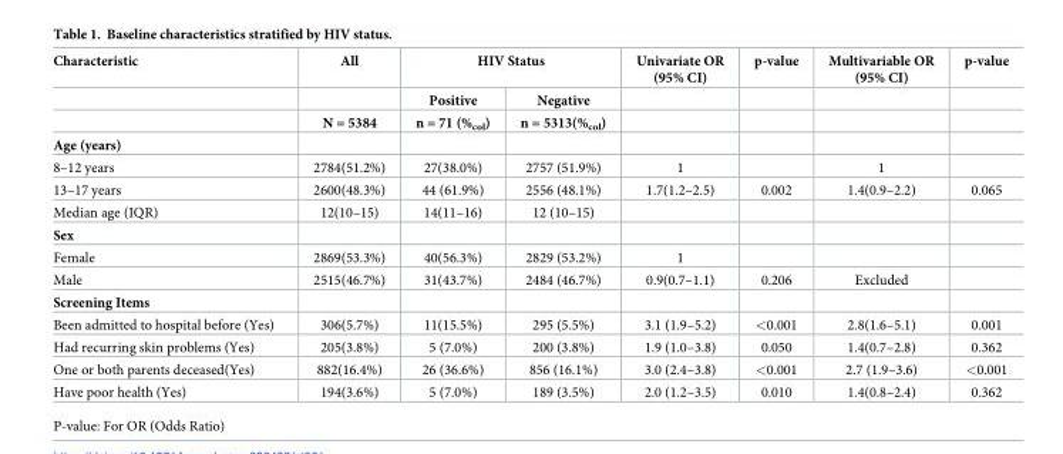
<table><thead><tr><td rowspan="2">Characteristic</td><td rowspan="2">All</td><td colspan="2">HIV Status</td><td rowspan="2">Univariate OR (95% CI)</td><td rowspan="2">p-value</td><td rowspan="2">Multivariable OR (95% CI)</td><td rowspan="2">p-value</td></tr><tr><td>Positive</td><td>Negative</td></tr></thead><tbody><tr><td></td><td>N = 5384</td><td>n = 71 (%<sub>col</sub>)</td><td>n = 5313(%<sub>col</sub>)</td><td></td><td></td><td></td><td></td></tr><tr><td colspan="8">Age (years)</td></tr><tr><td>8–12 years</td><td>2784(51.2%)</td><td>27(38.0%)</td><td>2757 (51.9%)</td><td>1</td><td></td><td>1</td><td></td></tr><tr><td>13–17 years</td><td>2600(48.3%)</td><td>44 (61.9%)</td><td>2556 (48.1%)</td><td>1.7(1.2–2.5)</td><td>0.002</td><td>1.4(0.9–2.2)</td><td>0.065</td></tr><tr><td>Median age (IQR)</td><td>12(10–15)</td><td>14(11–16)</td><td>12 (10–15)</td><td></td><td></td><td></td><td></td></tr><tr><td colspan="8">Sex</td></tr><tr><td>Female</td><td>2869(53.3%)</td><td>40(56.3%)</td><td>2829 (53.2%)</td><td>1</td><td></td><td></td><td></td></tr><tr><td>Male</td><td>2515(46.7%)</td><td>31(43.7%)</td><td>2484 (46.7%)</td><td>0.9(0.7–1.1)</td><td>0.206</td><td>Excluded</td><td></td></tr><tr><td colspan="8">Screening Items</td></tr><tr><td>Been admitted to hospital before (Yes)</td><td>306(5.7%)</td><td>11(15.5%)</td><td>295 (5.5%)</td><td>3.1 (1.9–5.2)</td><td>&lt;0.001</td><td>2.8(1.6–5.1)</td><td>0.001</td></tr><tr><td>Had recurring skin problems (Yes)</td><td>205(3.8%)</td><td>5 (7.0%)</td><td>200 (3.8%)</td><td>1.9 (1.0–3.8)</td><td>0.050</td><td>1.4(0.7–2.8)</td><td>0.362</td></tr><tr><td>One or both parents deceased(Yes)</td><td>882(16.4%)</td><td>26 (36.6%)</td><td>856 (16.1%)</td><td>3.0 (2.4–3.8)</td><td>&lt;0.001</td><td>2.7 (1.9–3.6)</td><td>&lt;0.001</td></tr><tr><td>Have poor health (Yes)</td><td>194(3.6%)</td><td>5 (7.0%)</td><td>189 (3.5%)</td><td>2.0 (1.2–3.5)</td><td>0.010</td><td>1.4(0.8–2.4)</td><td>0.362</td></tr></tbody></table>